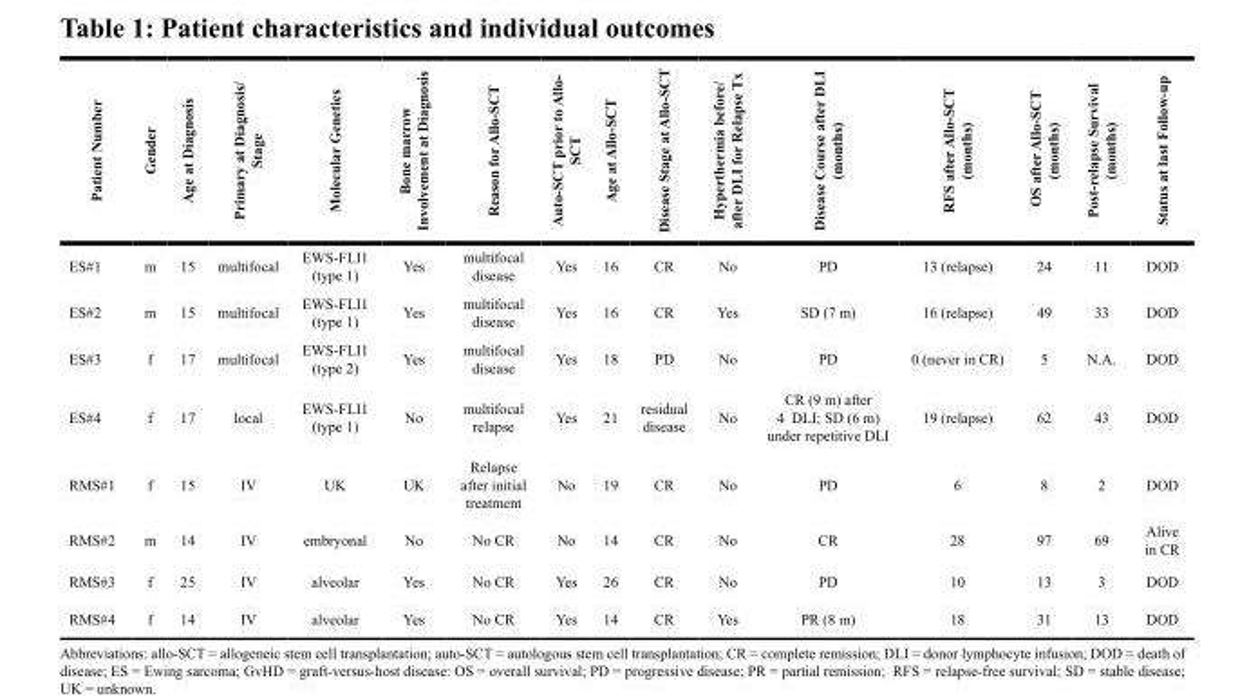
<table><thead><tr><td>Patient Number</td><td>Gender</td><td>Age at Diagnosis</td><td>Primary at Diagnosis/ Stage</td><td>Molecular Genetics</td><td>Bone marrow Involvement at Diagnosis</td><td>Reason for Allo-SCT</td><td>Auto-SCT prior to Allo- SCT</td><td>Age at Allo-SCT</td><td>Disease Stage at Allo-SCT</td><td>Hyperthermia before/ after DLI for Relapse Tx</td><td>Disease Course after DLI (months)</td><td>RFS after Allo-SCT (months)</td><td>OS after Allo-SCT (months)</td><td>Post-relapse Survival (months)</td><td>Status at last Follow-up</td></tr></thead><tbody><tr><td>ES#1</td><td>m</td><td>15</td><td>multifocal</td><td>EWS-FLI1 (type 1)</td><td>Yes</td><td>multifocal disease</td><td>Yes</td><td>16</td><td>CR</td><td>No</td><td>PD</td><td>13 (relapse)</td><td>24</td><td>11</td><td>DOD</td></tr><tr><td>ES#2</td><td>m</td><td>15</td><td>multifocal</td><td>EWS-FLI1 (type 1)</td><td>Yes</td><td>multifocal disease</td><td>Yes</td><td>16</td><td>CR</td><td>Yes</td><td>SD (7 m)</td><td>16 (relapse)</td><td>49</td><td>33</td><td>DOD</td></tr><tr><td>ES#3</td><td>f</td><td>17</td><td>multifocal</td><td>EWS-FLI1 (type 2)</td><td>Yes</td><td>multifocal disease</td><td>Yes</td><td>18</td><td>PD</td><td>No</td><td>PD</td><td>0 (never in CR)</td><td>5</td><td>N.A.</td><td>DOD</td></tr><tr><td>ES#4</td><td>f</td><td>17</td><td>local</td><td>EWS-FLI1 (type 1)</td><td>No</td><td>multifocal relapse</td><td>Yes</td><td>21</td><td>residual disease</td><td>No</td><td>CR (9 m) after 4 DLI; SD (6 m) under repetitive DLI</td><td>19 (relapse)</td><td>62</td><td>43</td><td>DOD</td></tr><tr><td>RMS#1</td><td>f</td><td>15</td><td>IV</td><td>UK</td><td>UK</td><td>Relapse after initial treatment</td><td>No</td><td>19</td><td>CR</td><td>No</td><td>PD</td><td>6</td><td>8</td><td>2</td><td>DOD</td></tr><tr><td>RMS#2</td><td>m</td><td>14</td><td>IV</td><td>embryonal</td><td>No</td><td>No CR</td><td>No</td><td>14</td><td>CR</td><td>No</td><td>CR</td><td>28</td><td>97</td><td>69</td><td>Alive in CR</td></tr><tr><td>RMS#3</td><td>f</td><td>25</td><td>IV</td><td>alveolar</td><td>Yes</td><td>No CR</td><td>Yes</td><td>26</td><td>CR</td><td>No</td><td>PD</td><td>10</td><td>13</td><td>3</td><td>DOD</td></tr><tr><td>RMS#4</td><td>f</td><td>14</td><td>IV</td><td>alveolar</td><td>Yes</td><td>No CR</td><td>Yes</td><td>14</td><td>CR</td><td>Yes</td><td>PR (8 m)</td><td>18</td><td>31</td><td>13</td><td>DOD</td></tr></tbody></table>